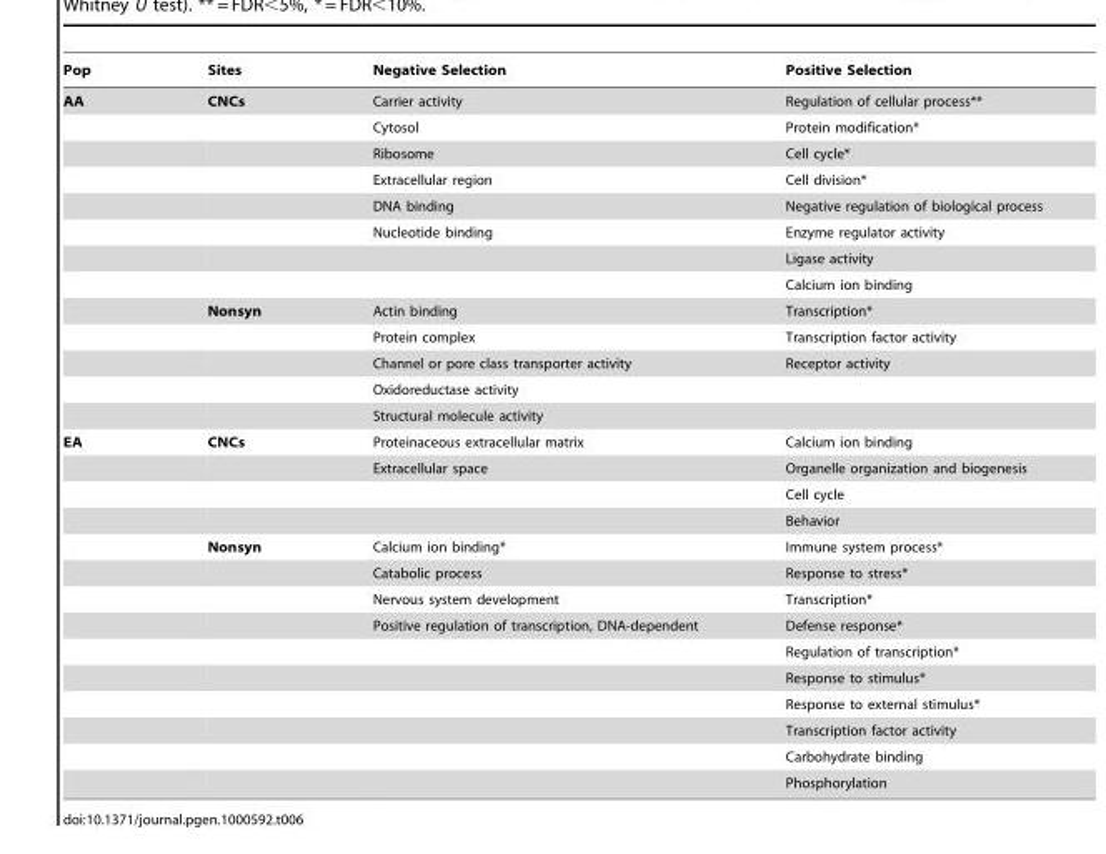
<table><thead><tr><td>Pop</td><td>Sites</td><td>Negative Selection</td><td>Positive Selection</td></tr></thead><tbody><tr><td rowspan="13">AA</td><td>CNCs</td><td>Carrier activity</td><td>Regulation of cellular process**</td></tr><tr><td></td><td>Cytosol</td><td>Protein modification*</td></tr><tr><td></td><td>Ribosome</td><td>Cell cycle*</td></tr><tr><td></td><td>Extracellular region</td><td>Cell division*</td></tr><tr><td></td><td>DNA binding</td><td>Negative regulation of biological process</td></tr><tr><td></td><td>Nucleotide binding</td><td>Enzyme regulator activity</td></tr><tr><td></td><td></td><td>Ligase activity</td></tr><tr><td></td><td></td><td>Calcium ion binding</td></tr><tr><td>Nonsyn</td><td>Actin binding</td><td>Transcription*</td></tr><tr><td></td><td>Protein complex</td><td>Transcription factor activity</td></tr><tr><td></td><td>Channel or pore class transporter activity</td><td>Receptor activity</td></tr><tr><td></td><td>Oxidoreductase activity</td><td></td></tr><tr><td></td><td>Structural molecule activity</td><td></td></tr><tr><td rowspan="14">EA</td><td>CNCs</td><td>Proteinaceous extracellular matrix</td><td>Calcium ion binding</td></tr><tr><td></td><td>Extracellular space</td><td>Organelle organization and biogenesis</td></tr><tr><td></td><td></td><td>Cell cycle</td></tr><tr><td></td><td></td><td>Behavior</td></tr><tr><td>Nonsyn</td><td>Calcium ion binding*</td><td>Immune system process*</td></tr><tr><td></td><td>Catabolic process</td><td>Response to stress*</td></tr><tr><td></td><td>Nervous system development</td><td>Transcription*</td></tr><tr><td></td><td>Positive regulation of transcription, DNA-dependent</td><td>Defense response*</td></tr><tr><td></td><td></td><td>Regulation of transcription*</td></tr><tr><td></td><td></td><td>Response to stimulus*</td></tr><tr><td></td><td></td><td>Response to external stimulus*</td></tr><tr><td></td><td></td><td>Transcription factor activity</td></tr><tr><td></td><td></td><td>Carbohydrate binding</td></tr><tr><td></td><td></td><td>Phosphorylation</td></tr></tbody></table>